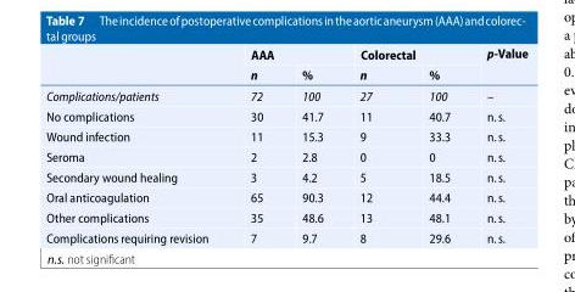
<table><thead><tr><td rowspan="2"></td><td colspan="2">AAA</td><td colspan="2">Colorectal</td><td rowspan="2">p-Value</td></tr><tr><td>n</td><td>%</td><td>n</td><td>%</td></tr></thead><tbody><tr><td>Complications/patients</td><td>72</td><td>100</td><td>27</td><td>100</td><td>–</td></tr><tr><td>No complications</td><td>30</td><td>41.7</td><td>11</td><td>40.7</td><td>n.s.</td></tr><tr><td>Wound infection</td><td>11</td><td>15.3</td><td>9</td><td>33.3</td><td>n.s.</td></tr><tr><td>Seroma</td><td>2</td><td>2.8</td><td>0</td><td>0</td><td>n.s.</td></tr><tr><td>Secondary wound healing</td><td>3</td><td>4.2</td><td>5</td><td>18.5</td><td>n.s.</td></tr><tr><td>Oral anticoagulation</td><td>65</td><td>90.3</td><td>12</td><td>44.4</td><td>n.s.</td></tr><tr><td>Other complications</td><td>35</td><td>48.6</td><td>13</td><td>48.1</td><td>n.s.</td></tr><tr><td>Complications requiring revision</td><td>7</td><td>9.7</td><td>8</td><td>29.6</td><td>n.s.</td></tr></tbody></table>